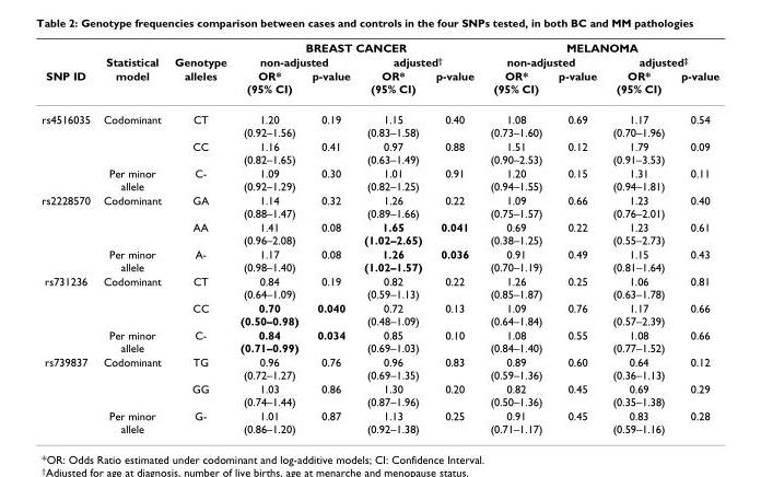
<table><thead><tr><td rowspan="3">SNP ID</td><td rowspan="3">Statistical model</td><td rowspan="3">Genotype alleles</td><td colspan="4">BREAST CANCER</td><td colspan="4">MELANOMA</td></tr><tr><td colspan="2">non-adjusted</td><td colspan="2">adjusted<sup>†</sup></td><td colspan="2">non-adjusted</td><td colspan="2">adjusted<sup>‡</sup></td></tr><tr><td>OR* (95% CI)</td><td>p-value</td><td>OR* (95% CI)</td><td>p-value</td><td>OR* (95% CI)</td><td>p-value</td><td>OR* (95% CI)</td><td>p-value</td></tr></thead><tbody><tr><td rowspan="3">rs4516035</td><td>Codominant</td><td>CT</td><td>1.20 (0.92–1.56)</td><td>0.19</td><td>1.15 (0.83–1.58)</td><td>0.40</td><td>1.08 (0.73–1.60)</td><td>0.69</td><td>1.17 (0.70–1.96)</td><td>0.54</td></tr><tr><td></td><td>CC</td><td>1.16 (0.82–1.65)</td><td>0.41</td><td>0.97 (0.63–1.49)</td><td>0.88</td><td>1.51 (0.90–2.53)</td><td>0.12</td><td>1.79 (0.91–3.53)</td><td>0.09</td></tr><tr><td>Per minor allele</td><td>C-</td><td>1.09 (0.92–1.29)</td><td>0.30</td><td>1.01 (0.82–1.25)</td><td>0.91</td><td>1.20 (0.94–1.55)</td><td>0.15</td><td>1.31 (0.94–1.81)</td><td>0.11</td></tr><tr><td rowspan="3">rs2228570</td><td>Codominant</td><td>GA</td><td>1.14 (0.88–1.47)</td><td>0.32</td><td>1.26 (0.89–1.66)</td><td>0.22</td><td>1.09 (0.75–1.57)</td><td>0.66</td><td>1.23 (0.76–2.01)</td><td>0.40</td></tr><tr><td></td><td>AA</td><td>1.41 (0.96–2.08)</td><td>0.08</td><td>1.65 (1.02–2.65)</td><td>0.041</td><td>0.69 (0.38–1.25)</td><td>0.22</td><td>1.23 (0.55–2.73)</td><td>0.61</td></tr><tr><td>Per minor allele</td><td>A-</td><td>1.17 (0.98–1.40)</td><td>0.08</td><td>1.26 (1.02–1.57)</td><td>0.036</td><td>0.91 (0.70–1.19)</td><td>0.49</td><td>1.15 (0.81–1.64)</td><td>0.43</td></tr><tr><td rowspan="3">rs731236</td><td>Codominant</td><td>CT</td><td>0.84 (0.64–1.09)</td><td>0.19</td><td>0.82 (0.59–1.13)</td><td>0.22</td><td>1.26 (0.85–1.87)</td><td>0.25</td><td>1.06 (0.63–1.78)</td><td>0.81</td></tr><tr><td></td><td>CC</td><td>0.70 (0.50–0.98)</td><td>0.040</td><td>0.72 (0.48–1.09)</td><td>0.13</td><td>1.09 (0.64–1.84)</td><td>0.76</td><td>1.17 (0.57–2.39)</td><td>0.66</td></tr><tr><td>Per minor allele</td><td>C-</td><td>0.84 (0.71–0.99)</td><td>0.034</td><td>0.85 (0.69–1.03)</td><td>0.10</td><td>1.08 (0.84–1.40)</td><td>0.55</td><td>1.08 (0.77–1.52)</td><td>0.66</td></tr><tr><td rowspan="3">rs739837</td><td>Codominant</td><td>TG</td><td>0.96 (0.72–1.27)</td><td>0.76</td><td>0.96 (0.69–1.35)</td><td>0.83</td><td>0.89 (0.59–1.36)</td><td>0.60</td><td>0.64 (0.36–1.13)</td><td>0.12</td></tr><tr><td></td><td>GG</td><td>1.03 (0.74–1.44)</td><td>0.86</td><td>1.30 (0.87–1.96)</td><td>0.20</td><td>0.82 (0.50–1.36)</td><td>0.45</td><td>0.69 (0.35–1.38)</td><td>0.29</td></tr><tr><td>Per minor allele</td><td>G-</td><td>1.01 (0.86–1.20)</td><td>0.87</td><td>1.13 (0.92–1.38)</td><td>0.25</td><td>0.91 (0.71–1.17)</td><td>0.45</td><td>0.83 (0.59–1.16)</td><td>0.28</td></tr></tbody></table>